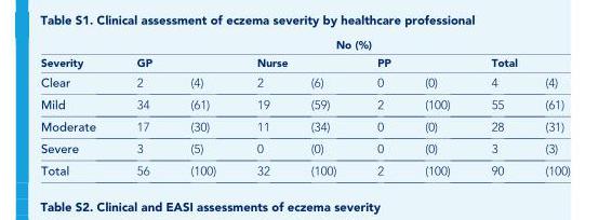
<table><thead><tr><td rowspan="2">Severity</td><td colspan="8">No (%)</td></tr><tr><td>GP</td><td></td><td>Nurse</td><td></td><td>PP</td><td></td><td>Total</td><td></td></tr></thead><tbody><tr><td>Clear</td><td>2</td><td>(4)</td><td>2</td><td>(6)</td><td>0</td><td>(0)</td><td>4</td><td>(4)</td></tr><tr><td>Mild</td><td>34</td><td>(61)</td><td>19</td><td>(59)</td><td>2</td><td>(100)</td><td>55</td><td>(61)</td></tr><tr><td>Moderate</td><td>17</td><td>(30)</td><td>11</td><td>(34)</td><td>0</td><td>(0)</td><td>28</td><td>(31)</td></tr><tr><td>Severe</td><td>3</td><td>(5)</td><td>0</td><td>(0)</td><td>0</td><td>(0)</td><td>3</td><td>(3)</td></tr><tr><td>Total</td><td>56</td><td>(100)</td><td>32</td><td>(100)</td><td>2</td><td>(100)</td><td>90</td><td>(100)</td></tr></tbody></table>